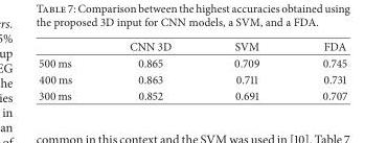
<table><thead><tr><td></td><td>CNN 3D</td><td>SVM</td><td>FDA</td></tr></thead><tbody><tr><td>500 ms</td><td>0.865</td><td>0.709</td><td>0.745</td></tr><tr><td>400 ms</td><td>0.863</td><td>0.711</td><td>0.731</td></tr><tr><td>300 ms</td><td>0.852</td><td>0.691</td><td>0.707</td></tr></tbody></table>